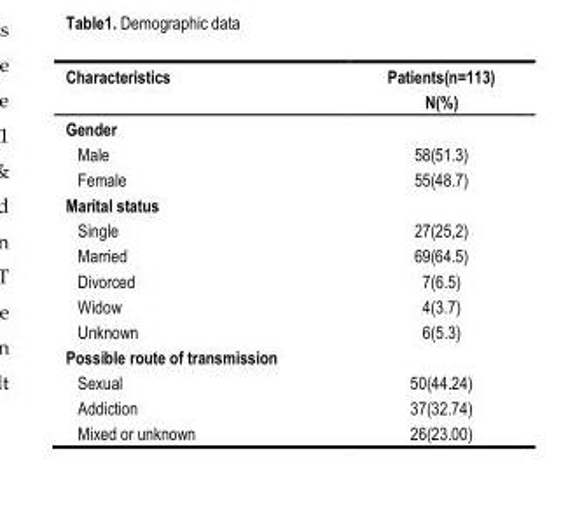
<table><thead><tr><td>Characteristics</td><td>Patients(n=113) N(%)</td></tr></thead><tbody><tr><td colspan="2">Gender</td></tr><tr><td>Male</td><td>58(51.3)</td></tr><tr><td>Female</td><td>55(48.7)</td></tr><tr><td colspan="2">Marital status</td></tr><tr><td>Single</td><td>27(25,2)</td></tr><tr><td>Married</td><td>69(64.5)</td></tr><tr><td>Divorced</td><td>7(6.5)</td></tr><tr><td>Widow</td><td>4(3.7)</td></tr><tr><td>Unknown</td><td>6(5.3)</td></tr><tr><td colspan="2">Possible route of transmission</td></tr><tr><td>Sexual</td><td>50(44.24)</td></tr><tr><td>Addiction</td><td>37(32.74)</td></tr><tr><td>Mixed or unknown</td><td>26(23.00)</td></tr></tbody></table>